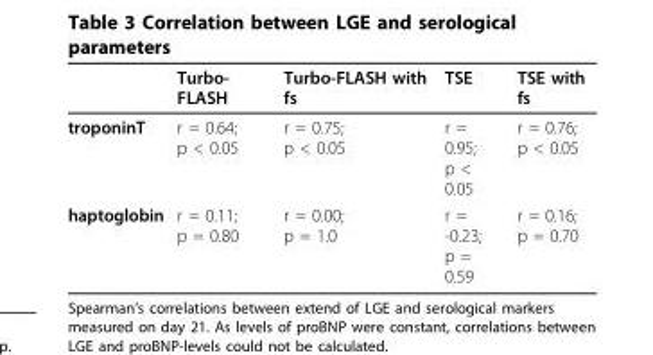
<table><thead><tr><td></td><td>Turbo- FLASH</td><td>Turbo-FLASH with fs</td><td>TSE</td><td>TSE with fs</td></tr></thead><tbody><tr><td>troponinT</td><td>r = 0.64; p &lt; 0.05</td><td>r = 0.75; p &lt; 0.05</td><td>r = 0.95; p &lt; 0.05</td><td>r = 0.76; p &lt; 0.05</td></tr><tr><td>haptoglobin</td><td>r = 0.11; p = 0.80</td><td>r = 0.00; p = 1.0</td><td>r = -0.23; p = 0.59</td><td>r = 0.16; p = 0.70</td></tr></tbody></table>